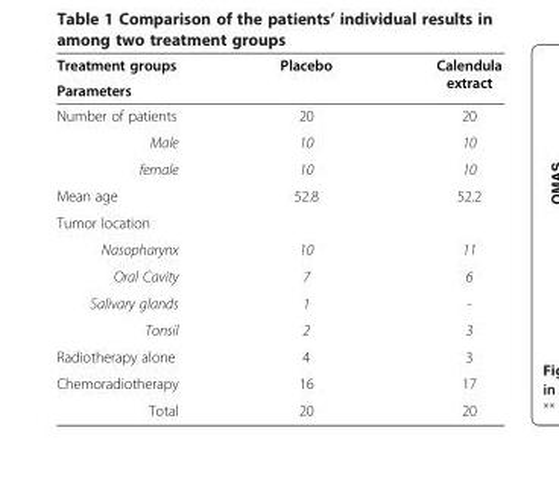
<table><thead><tr><td rowspan="2">Treatment groups Parameters</td><td rowspan="2">Placebo</td><td rowspan="2">Calendula extract</td></tr><tr></tr></thead><tbody><tr><td>Number of patients</td><td>20</td><td>20</td></tr><tr><td>Male</td><td>10</td><td>10</td></tr><tr><td>female</td><td>10</td><td>10</td></tr><tr><td>Mean age</td><td>52.8</td><td>52.2</td></tr><tr><td colspan="3">Tumor location</td></tr><tr><td>Nasopharynx</td><td>10</td><td>11</td></tr><tr><td>Oral Cavity</td><td>7</td><td>6</td></tr><tr><td>Salivary glands</td><td>1</td><td>-</td></tr><tr><td>Tonsil</td><td>2</td><td>3</td></tr><tr><td>Radiotherapy alone</td><td>4</td><td>3</td></tr><tr><td>Chemoradiotherapy</td><td>16</td><td>17</td></tr><tr><td>Total</td><td>20</td><td>20</td></tr></tbody></table>